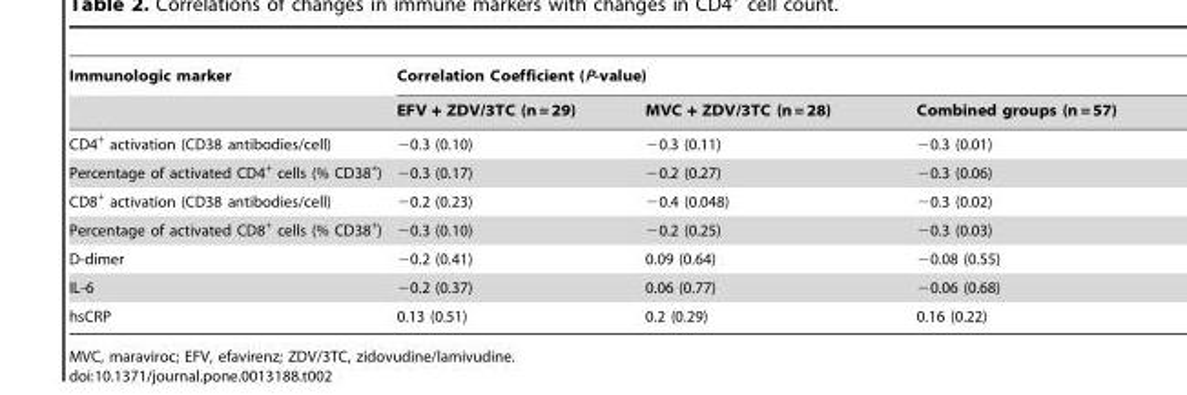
<table><thead><tr><td rowspan="2">Immunologic marker</td><td colspan="3">Correlation Coefficient (P-value)</td></tr><tr><td>EFV + ZDV/3TC (n = 29)</td><td>MVC + ZDV/3TC (n = 28)</td><td>Combined groups (n = 57)</td></tr></thead><tbody><tr><td>CD4<sup>+</sup> activation (CD38 antibodies/cell)</td><td>−0.3 (0.10)</td><td>−0.3 (0.11)</td><td>−0.3 (0.01)</td></tr><tr><td>Percentage of activated CD4<sup>+</sup> cells (% CD38<sup>+</sup>)</td><td>−0.3 (0.17)</td><td>−0.2 (0.27)</td><td>−0.3 (0.06)</td></tr><tr><td>CD8<sup>+</sup> activation (CD38 antibodies/cell)</td><td>−0.2 (0.23)</td><td>−0.4 (0.048)</td><td>−0.3 (0.02)</td></tr><tr><td>Percentage of activated CD8<sup>+</sup> cells (% CD38<sup>+</sup>)</td><td>−0.3 (0.10)</td><td>−0.2 (0.25)</td><td>−0.3 (0.03)</td></tr><tr><td>D-dimer</td><td>−0.2 (0.41)</td><td>0.09 (0.64)</td><td>−0.08 (0.55)</td></tr><tr><td>IL-6</td><td>−0.2 (0.37)</td><td>0.06 (0.77)</td><td>−0.06 (0.68)</td></tr><tr><td>hsCRP</td><td>0.13 (0.51)</td><td>0.2 (0.29)</td><td>0.16 (0.22)</td></tr></tbody></table>